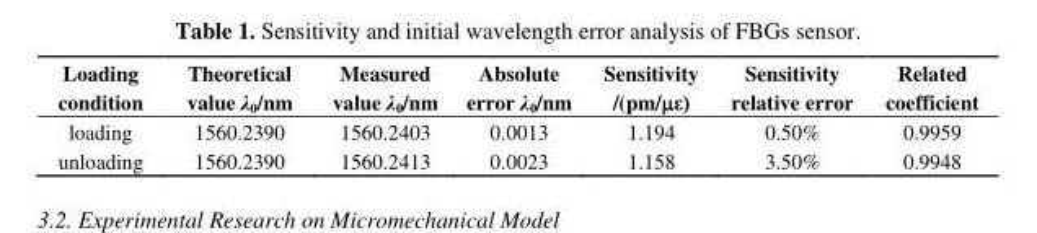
<table><thead><tr><td>Loading condition</td><td>Theoretical value λ<sub>0</sub>/nm</td><td>Measured value λ<sub>0</sub>/nm</td><td>Absolute error λ<sub>0</sub>/nm</td><td>Sensitivity /(pm/με)</td><td>Sensitivity relative error</td><td>Related coefficient</td></tr></thead><tbody><tr><td>loading</td><td>1560.2390</td><td>1560.2403</td><td>0.0013</td><td>1.194</td><td>0.50%</td><td>0.9959</td></tr><tr><td>unloading</td><td>1560.2390</td><td>1560.2413</td><td>0.0023</td><td>1.158</td><td>3.50%</td><td>0.9948</td></tr></tbody></table>